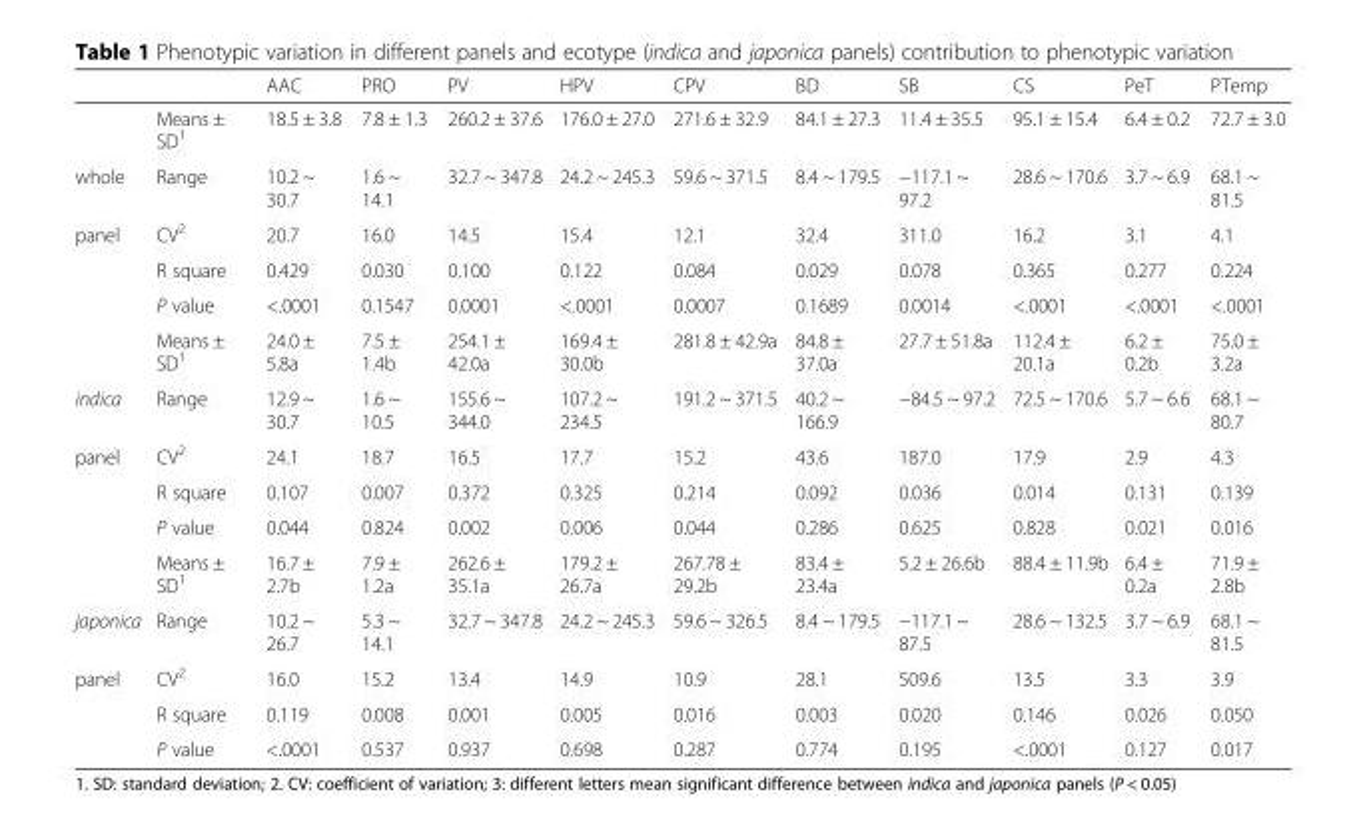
<table><thead><tr><td></td><td></td><td>AAC</td><td>PRO</td><td>PV</td><td>HPV</td><td>CPV</td><td>BD</td><td>SB</td><td>CS</td><td>PeT</td><td>PTemp</td></tr></thead><tbody><tr><td></td><td>Means ± SD<sup>1</sup></td><td>18.5 ± 3.8</td><td>7.8 ± 1.3</td><td>260.2 ± 37.6</td><td>176.0 ± 27.0</td><td>271.6 ± 32.9</td><td>84.1 ± 27.3</td><td>11.4 ± 35.5</td><td>95.1 ± 15.4</td><td>6.4 ± 0.2</td><td>72.7 ± 3.0</td></tr><tr><td>whole</td><td>Range</td><td>10.2 ~ 30.7</td><td>1.6 ~ 14.1</td><td>32.7 ~ 347.8</td><td>24.2 ~ 245.3</td><td>59.6 ~ 371.5</td><td>8.4 ~ 179.5</td><td>−117.1 ~ 97.2</td><td>28.6 ~ 170.6</td><td>3.7 ~ 6.9</td><td>68.1 ~ 81.5</td></tr><tr><td rowspan="4">panel</td><td>CV<sup>2</sup></td><td>20.7</td><td>16.0</td><td>14.5</td><td>15.4</td><td>12.1</td><td>32.4</td><td>311.0</td><td>16.2</td><td>3.1</td><td>4.1</td></tr><tr><td>R square</td><td>0.429</td><td>0.030</td><td>0.100</td><td>0.122</td><td>0.084</td><td>0.029</td><td>0.078</td><td>0.365</td><td>0.277</td><td>0.224</td></tr><tr><td>P value</td><td>&lt;.0001</td><td>0.1547</td><td>0.0001</td><td>&lt;.0001</td><td>0.0007</td><td>0.1689</td><td>0.0014</td><td>&lt;.0001</td><td>&lt;.0001</td><td>&lt;.0001</td></tr><tr><td>Means ± SD<sup>1</sup></td><td>24.0 ± 5.8a</td><td>7.5 ± 1.4b</td><td>254.1 ± 42.0a</td><td>169.4 ± 30.0b</td><td>281.8 ± 42.9a</td><td>84.8 ± 37.0a</td><td>27.7 ± 51.8a</td><td>112.4 ± 20.1a</td><td>6.2 ± 0.2b</td><td>75.0 ± 3.2a</td></tr><tr><td>indica</td><td>Range</td><td>12.9 ~ 30.7</td><td>1.6 ~ 10.5</td><td>155.6 ~ 344.0</td><td>107.2 ~ 234.5</td><td>191.2 ~ 371.5</td><td>40.2 ~ 166.9</td><td>−84.5 ~ 97.2</td><td>72.5 ~ 170.6</td><td>5.7 ~ 6.6</td><td>68.1 ~ 80.7</td></tr><tr><td rowspan="4">panel</td><td>CV<sup>2</sup></td><td>24.1</td><td>18.7</td><td>16.5</td><td>17.7</td><td>15.2</td><td>43.6</td><td>187.0</td><td>17.9</td><td>2.9</td><td>4.3</td></tr><tr><td>R square</td><td>0.107</td><td>0.007</td><td>0.372</td><td>0.325</td><td>0.214</td><td>0.092</td><td>0.036</td><td>0.014</td><td>0.131</td><td>0.139</td></tr><tr><td>P value</td><td>0.044</td><td>0.824</td><td>0.002</td><td>0.006</td><td>0.044</td><td>0.286</td><td>0.625</td><td>0.828</td><td>0.021</td><td>0.016</td></tr><tr><td>Means ± SD<sup>1</sup></td><td>16.7 ± 2.7b</td><td>7.9 ± 1.2a</td><td>262.6 ± 35.1a</td><td>179.2 ± 26.7a</td><td>267.78 ± 29.2b</td><td>83.4 ± 23.4a</td><td>5.2 ± 26.6b</td><td>88.4 ± 11.9b</td><td>6.4 ± 0.2a</td><td>71.9 ± 2.8b</td></tr><tr><td>japonica</td><td>Range</td><td>10.2 ~ 26.7</td><td>5.3 ~ 14.1</td><td>32.7 ~ 347.8</td><td>24.2 ~ 245.3</td><td>59.6 ~ 326.5</td><td>8.4 ~ 179.5</td><td>−117.1 ~ 87.5</td><td>28.6 ~ 132.5</td><td>3.7 ~ 6.9</td><td>68.1 ~ 81.5</td></tr><tr><td rowspan="3">panel</td><td>CV<sup>2</sup></td><td>16.0</td><td>15.2</td><td>13.4</td><td>14.9</td><td>10.9</td><td>28.1</td><td>509.6</td><td>13.5</td><td>3.3</td><td>3.9</td></tr><tr><td>R square</td><td>0.119</td><td>0.008</td><td>0.001</td><td>0.005</td><td>0.016</td><td>0.003</td><td>0.020</td><td>0.146</td><td>0.026</td><td>0.050</td></tr><tr><td>P value</td><td>&lt;.0001</td><td>0.537</td><td>0.937</td><td>0.698</td><td>0.287</td><td>0.774</td><td>0.195</td><td>&lt;.0001</td><td>0.127</td><td>0.017</td></tr></tbody></table>